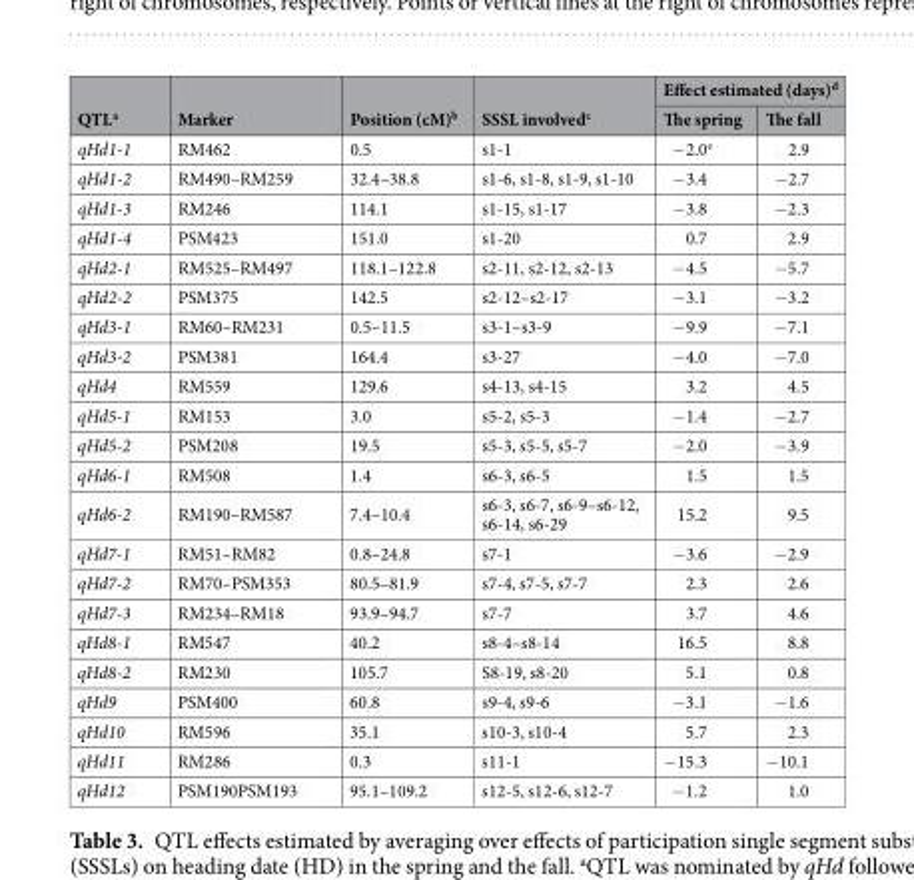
<table><thead><tr><td rowspan="2">QTL<sup>a</sup></td><td rowspan="2">Marker</td><td rowspan="2">Position (cM)<sup>b</sup></td><td rowspan="2">SSSL involved<sup>c</sup></td><td colspan="2">Effect estimated (days)<sup>d</sup></td></tr><tr><td>The spring</td><td>The fall</td></tr></thead><tbody><tr><td>qHd1-1</td><td>RM462</td><td>0.5</td><td>s1-1</td><td>−2.0<sup>e</sup></td><td>2.9</td></tr><tr><td>qHd1-2</td><td>RM490–RM259</td><td>32.4–38.8</td><td>s1-6, s1-8, s1-9, s1-10</td><td>−3.4</td><td>−2.7</td></tr><tr><td>qHd1-3</td><td>RM246</td><td>114.1</td><td>s1-15, s1-17</td><td>−3.8</td><td>−2.3</td></tr><tr><td>qHd1-4</td><td>PSM423</td><td>151.0</td><td>s1-20</td><td>0.7</td><td>2.9</td></tr><tr><td>qHd2-1</td><td>RM525–RM497</td><td>118.1–122.8</td><td>s2-11, s2-12, s2-13</td><td>−4.5</td><td>−5.7</td></tr><tr><td>qHd2-2</td><td>PSM375</td><td>142.5</td><td>s2-12–s2-17</td><td>−3.1</td><td>−3.2</td></tr><tr><td>qHd3-1</td><td>RM60–RM231</td><td>0.5–11.5</td><td>s3-1–s3-9</td><td>−9.9</td><td>−7.1</td></tr><tr><td>qHd3-2</td><td>PSM381</td><td>164.4</td><td>s3-27</td><td>−4.0</td><td>−7.0</td></tr><tr><td>qHd4</td><td>RM559</td><td>129.6</td><td>s4-13, s4-15</td><td>3.2</td><td>4.5</td></tr><tr><td>qHd5-1</td><td>RM153</td><td>3.0</td><td>s5-2, s5-3</td><td>−1.4</td><td>−2.7</td></tr><tr><td>qHd5-2</td><td>PSM208</td><td>19.5</td><td>s5-3, s5-5, s5-7</td><td>−2.0</td><td>−3.9</td></tr><tr><td>qHd6-1</td><td>RM508</td><td>1.4</td><td>s6-3, s6-5</td><td>1.5</td><td>1.5</td></tr><tr><td>qHd6-2</td><td>RM190–RM587</td><td>7.4–10.4</td><td>s6-3, s6-7, s6-9–s6-12, s6-14, s6-29</td><td>15.2</td><td>9.5</td></tr><tr><td>qHd7-1</td><td>RM51–RM82</td><td>0.8–24.8</td><td>s7-1</td><td>−3.6</td><td>−2.9</td></tr><tr><td>qHd7-2</td><td>RM70–PSM353</td><td>80.5–81.9</td><td>s7-4, s7-5, s7-7</td><td>2.3</td><td>2.6</td></tr><tr><td>qHd7-3</td><td>RM234–RM18</td><td>93.9–94.7</td><td>s7-7</td><td>3.7</td><td>4.6</td></tr><tr><td>qHd8-1</td><td>RM547</td><td>40.2</td><td>s8-4–s8-14</td><td>16.5</td><td>8.8</td></tr><tr><td>qHd8-2</td><td>RM230</td><td>105.7</td><td>S8-19, s8-20</td><td>5.1</td><td>0.8</td></tr><tr><td>qHd9</td><td>PSM400</td><td>60.8</td><td>s9-4, s9-6</td><td>−3.1</td><td>−1.6</td></tr><tr><td>qHd10</td><td>RM596</td><td>35.1</td><td>s10-3, s10-4</td><td>5.7</td><td>2.3</td></tr><tr><td>qHd11</td><td>RM286</td><td>0.3</td><td>s11-1</td><td>−15.3</td><td>−10.1</td></tr><tr><td>qHd12</td><td>PSM190PSM193</td><td>95.1–109.2</td><td>s12-5, s12-6, s12-7</td><td>−1.2</td><td>1.0</td></tr></tbody></table>